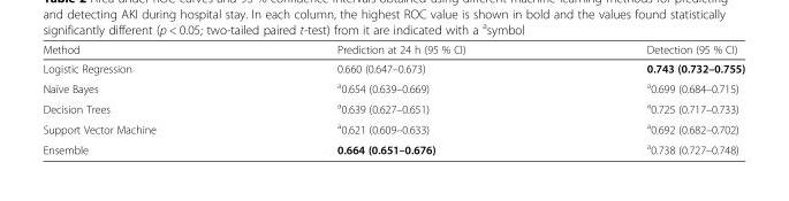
<table><thead><tr><td>Method</td><td>Prediction at 24 h (95 % CI)</td><td>Detection (95 % CI)</td></tr></thead><tbody><tr><td>Logistic Regression</td><td>0.660 (0.647–0.673)</td><td>0.743 (0.732–0.755)</td></tr><tr><td>Naïve Bayes</td><td><sup>a</sup>0.654 (0.639–0.669)</td><td><sup>a</sup>0.699 (0.684–0.715)</td></tr><tr><td>Decision Trees</td><td><sup>a</sup>0.639 (0.627–0.651)</td><td><sup>a</sup>0.725 (0.717–0.733)</td></tr><tr><td>Support Vector Machine</td><td><sup>a</sup>0.621 (0.609–0.633)</td><td><sup>a</sup>0.692 (0.682–0.702)</td></tr><tr><td>Ensemble</td><td>0.664 (0.651–0.676)</td><td><sup>a</sup>0.738 (0.727–0.748)</td></tr></tbody></table>